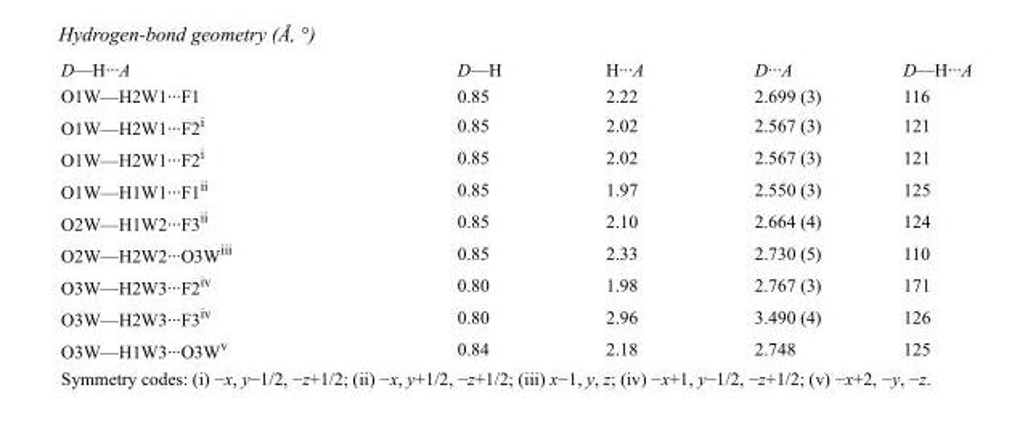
<table><tbody><tr><td>D—H···A</td><td>D—H</td><td>H···A</td><td>D···A</td><td>D—H···A</td></tr><tr><td>O1W—H2W1···F1</td><td>0.85</td><td>2.22</td><td>2.699 (3)</td><td>116</td></tr><tr><td>O1W—H2W1···F2<sup>i</sup></td><td>0.85</td><td>2.02</td><td>2.567 (3)</td><td>121</td></tr><tr><td>O1W—H2W1···F2<sup>i</sup></td><td>0.85</td><td>2.02</td><td>2.567 (3)</td><td>121</td></tr><tr><td>O1W—H1W1···F1<sup>ii</sup></td><td>0.85</td><td>1.97</td><td>2.550 (3)</td><td>125</td></tr><tr><td>O2W—H1W2···F3<sup>ii</sup></td><td>0.85</td><td>2.10</td><td>2.664 (4)</td><td>124</td></tr><tr><td>O2W—H2W2···O3W<sup>iii</sup></td><td>0.85</td><td>2.33</td><td>2.730 (5)</td><td>110</td></tr><tr><td>O3W—H2W3···F2<sup>iv</sup></td><td>0.80</td><td>1.98</td><td>2.767 (3)</td><td>171</td></tr><tr><td>O3W—H2W3···F3<sup>iv</sup></td><td>0.80</td><td>2.96</td><td>3.490 (4)</td><td>126</td></tr><tr><td>O3W—H1W3···O3W<sup>v</sup></td><td>0.84</td><td>2.18</td><td>2.748</td><td>125</td></tr></tbody></table>